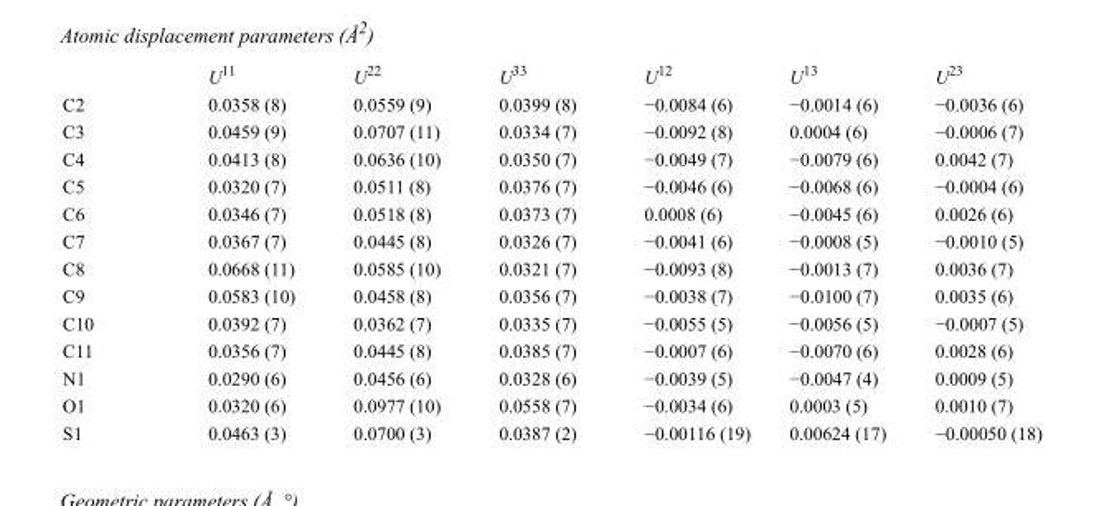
<table><thead><tr><td></td><td>U<sup>11</sup></td><td>U<sup>22</sup></td><td>U<sup>33</sup></td><td>U<sup>12</sup></td><td>U<sup>13</sup></td><td>U<sup>23</sup></td></tr></thead><tbody><tr><td>C2</td><td>0.0358 (8)</td><td>0.0559 (9)</td><td>0.0399 (8)</td><td>−0.0084 (6)</td><td>−0.0014 (6)</td><td>−0.0036 (6)</td></tr><tr><td>C3</td><td>0.0459 (9)</td><td>0.0707 (11)</td><td>0.0334 (7)</td><td>−0.0092 (8)</td><td>0.0004 (6)</td><td>−0.0006 (7)</td></tr><tr><td>C4</td><td>0.0413 (8)</td><td>0.0636 (10)</td><td>0.0350 (7)</td><td>−0.0049 (7)</td><td>−0.0079 (6)</td><td>0.0042 (7)</td></tr><tr><td>C5</td><td>0.0320 (7)</td><td>0.0511 (8)</td><td>0.0376 (7)</td><td>−0.0046 (6)</td><td>−0.0068 (6)</td><td>−0.0004 (6)</td></tr><tr><td>C6</td><td>0.0346 (7)</td><td>0.0518 (8)</td><td>0.0373 (7)</td><td>0.0008 (6)</td><td>−0.0045 (6)</td><td>0.0026 (6)</td></tr><tr><td>C7</td><td>0.0367 (7)</td><td>0.0445 (8)</td><td>0.0326 (7)</td><td>−0.0041 (6)</td><td>−0.0008 (5)</td><td>−0.0010 (5)</td></tr><tr><td>C8</td><td>0.0668 (11)</td><td>0.0585 (10)</td><td>0.0321 (7)</td><td>−0.0093 (8)</td><td>−0.0013 (7)</td><td>0.0036 (7)</td></tr><tr><td>C9</td><td>0.0583 (10)</td><td>0.0458 (8)</td><td>0.0356 (7)</td><td>−0.0038 (7)</td><td>−0.0100 (7)</td><td>0.0035 (6)</td></tr><tr><td>C10</td><td>0.0392 (7)</td><td>0.0362 (7)</td><td>0.0335 (7)</td><td>−0.0055 (5)</td><td>−0.0056 (5)</td><td>−0.0007 (5)</td></tr><tr><td>C11</td><td>0.0356 (7)</td><td>0.0445 (8)</td><td>0.0385 (7)</td><td>−0.0007 (6)</td><td>−0.0070 (6)</td><td>0.0028 (6)</td></tr><tr><td>N1</td><td>0.0290 (6)</td><td>0.0456 (6)</td><td>0.0328 (6)</td><td>−0.0039 (5)</td><td>−0.0047 (4)</td><td>0.0009 (5)</td></tr><tr><td>O1</td><td>0.0320 (6)</td><td>0.0977 (10)</td><td>0.0558 (7)</td><td>−0.0034 (6)</td><td>0.0003 (5)</td><td>0.0010 (7)</td></tr><tr><td>S1</td><td>0.0463 (3)</td><td>0.0700 (3)</td><td>0.0387 (2)</td><td>−0.00116 (19)</td><td>0.00624 (17)</td><td>−0.00050 (18)</td></tr></tbody></table>